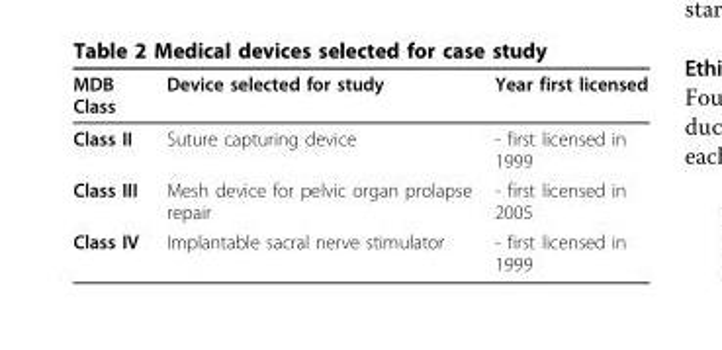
<table><thead><tr><td>MDB Class</td><td>Device selected for study</td><td>Year first licensed</td></tr></thead><tbody><tr><td>Class II</td><td>Suture capturing device</td><td>- first licensed in 1999</td></tr><tr><td>Class III</td><td>Mesh device for pelvic organ prolapse repair</td><td>- first licensed in 2005</td></tr><tr><td>Class IV</td><td>Implantable sacral nerve stimulator</td><td>- first licensed in 1999</td></tr></tbody></table>